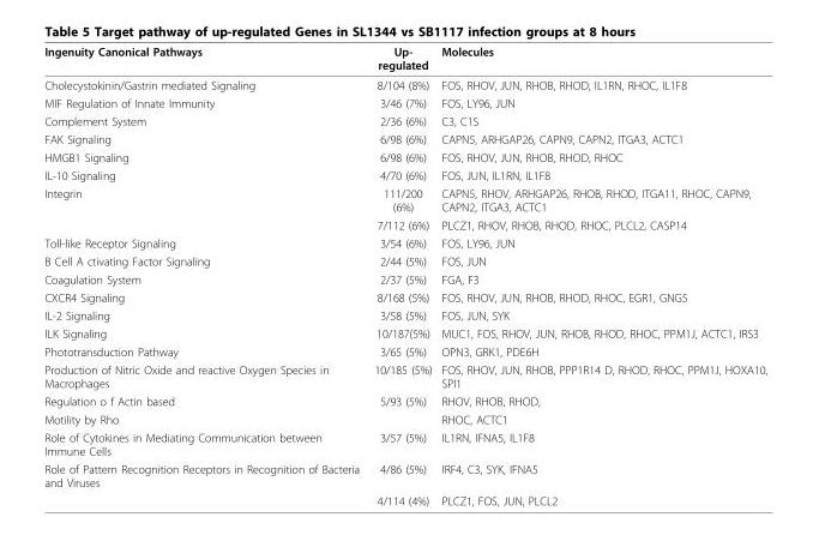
<table><thead><tr><td>Ingenuity Canonical Pathways</td><td>Up- regulated</td><td>Molecules</td></tr></thead><tbody><tr><td>Cholecystokinin/Gastrin mediated Signaling</td><td>8/104 (8%)</td><td>FOS, RHOV, JUN, RHOB, RHOD, IL1RN, RHOC, IL1F8</td></tr><tr><td>MIF Regulation of Innate Immunity</td><td>3/46 (7%)</td><td>FOS, LY96, JUN</td></tr><tr><td>Complement System</td><td>2/36 (6%)</td><td>C3, C1S</td></tr><tr><td>FAK Signaling</td><td>6/98 (6%)</td><td>CAPN5, ARHGAP26, CAPN9, CAPN2, ITGA3, ACTC1</td></tr><tr><td>HMGB1 Signaling</td><td>6/98 (6%)</td><td>FOS, RHOV, JUN, RHOB, RHOD, RHOC</td></tr><tr><td>IL-10 Signaling</td><td>4/70 (6%)</td><td>FOS, JUN, IL1RN, IL1F8</td></tr><tr><td rowspan="2">Integrin</td><td>111/200 (6%)</td><td>CAPN5, RHOV, ARHGAP26, RHOB, RHOD, ITGA11, RHOC, CAPN9, CAPN2, ITGA3, ACTC1</td></tr><tr><td>7/112 (6%)</td><td>PLCZ1, RHOV, RHOB, RHOD, RHOC, PLCL2, CASP14</td></tr><tr><td>Toll-like Receptor Signaling</td><td>3/54 (6%)</td><td>FOS, LY96, JUN</td></tr><tr><td>B Cell A ctivating Factor Signaling</td><td>2/44 (5%)</td><td>FOS, JUN</td></tr><tr><td>Coagulation System</td><td>2/37 (5%)</td><td>FGA, F3</td></tr><tr><td>CXCR4 Signaling</td><td>8/168 (5%)</td><td>FOS, RHOV, JUN, RHOB, RHOD, RHOC, EGR1, GNG5</td></tr><tr><td>IL-2 Signaling</td><td>3/58 (5%)</td><td>FOS, JUN, SYK</td></tr><tr><td>ILK Signaling</td><td>10/187(5%)</td><td>MUC1, FOS, RHOV, JUN, RHOB, RHOD, RHOC, PPM1J, ACTC1, IRS3</td></tr><tr><td>Phototransduction Pathway</td><td>3/65 (5%)</td><td>OPN3, GRK1, PDE6H</td></tr><tr><td>Production of Nitric Oxide and reactive Oxygen Species in Macrophages</td><td>10/185 (5%)</td><td>FOS, RHOV, JUN, RHOB, PPP1R14 D, RHOD, RHOC, PPM1J, HOXA10, SPI1</td></tr><tr><td>Regulation o f Actin based</td><td>5/93 (5%)</td><td>RHOV, RHOB, RHOD,</td></tr><tr><td>Motility by Rho</td><td></td><td>RHOC, ACTC1</td></tr><tr><td>Role of Cytokines in Mediating Communication between Immune Cells</td><td>3/57 (5%)</td><td>IL1RN, IFNA5, IL1F8</td></tr><tr><td rowspan="2">Role of Pattern Recognition Receptors in Recognition of Bacteria and Viruses</td><td>4/86 (5%)</td><td>IRF4, C3, SYK, IFNA5</td></tr><tr><td>4/114 (4%)</td><td>PLCZ1, FOS, JUN, PLCL2</td></tr></tbody></table>